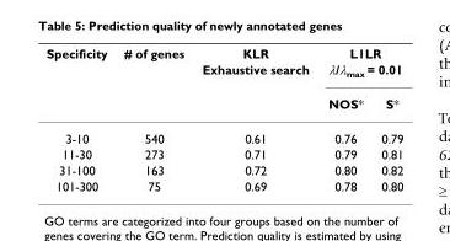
<table><thead><tr><td rowspan="3">Specificity</td><td rowspan="3"># of genes</td><td rowspan="3">KLR Exhaustive search</td><td rowspan="2" colspan="2">L1LR λ/λ<sub>max</sub> = 0.01</td></tr><tr></tr><tr><td>NOS*</td><td>S*</td></tr></thead><tbody><tr><td>3-10</td><td>540</td><td>0.61</td><td>0.76</td><td>0.79</td></tr><tr><td>11-30</td><td>273</td><td>0.71</td><td>0.79</td><td>0.81</td></tr><tr><td>31-100</td><td>163</td><td>0.72</td><td>0.80</td><td>0.82</td></tr><tr><td>101-300</td><td>75</td><td>0.69</td><td>0.78</td><td>0.80</td></tr></tbody></table>